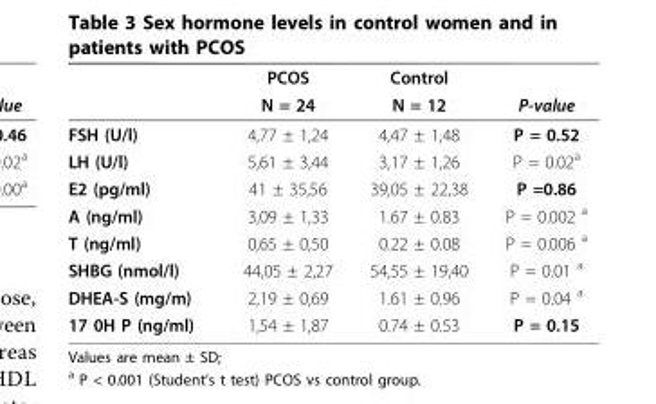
<table><thead><tr><td rowspan="2"></td><td rowspan="2">PCOS N = 24</td><td rowspan="2">Control N = 12</td><td rowspan="2">P-value</td></tr><tr></tr></thead><tbody><tr><td>FSH (U/l)</td><td>4,77 ± 1,24</td><td>4,47 ± 1,48</td><td>P = 0.52</td></tr><tr><td>LH (U/l)</td><td>5,61 ± 3,44</td><td>3,17 ± 1,26</td><td>P = 0.02<sup>a</sup></td></tr><tr><td>E2 (pg/ml)</td><td>41 ± 35,56</td><td>39,05 ± 22,38</td><td>P =0.86</td></tr><tr><td>A (ng/ml)</td><td>3,09 ± 1,33</td><td>1.67 ± 0.83</td><td>P = 0.002 <sup>a</sup></td></tr><tr><td>T (ng/ml)</td><td>0,65 ± 0,50</td><td>0.22 ± 0.08</td><td>P = 0.006 <sup>a</sup></td></tr><tr><td>SHBG (nmol/l)</td><td>44,05 ± 2,27</td><td>54,55 ± 19,40</td><td>P = 0.01 <sup>a</sup></td></tr><tr><td>DHEA-S (mg/m)</td><td>2,19 ± 0,69</td><td>1.61 ± 0.96</td><td>P = 0.04 <sup>a</sup></td></tr><tr><td>17 0H P (ng/ml)</td><td>1,54 ± 1,87</td><td>0.74 ± 0.53</td><td>P = 0.15</td></tr></tbody></table>